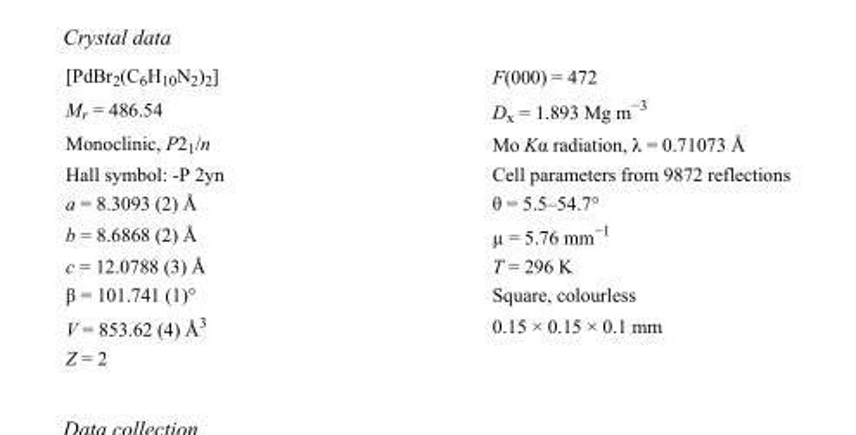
<table><tbody><tr><td>[PdBr<sub>2</sub>(C<sub>6</sub>H<sub>10</sub>N<sub>2</sub>)<sub>2</sub>]</td><td>F(000) = 472</td></tr><tr><td>M<sub>r</sub> = 486.54</td><td>D<sub>x</sub> = 1.893 Mg m<sup>−3</sup></td></tr><tr><td>Monoclinic, P2<sub>1</sub>/n</td><td>Mo Kα radiation, λ = 0.71073 Å</td></tr><tr><td>Hall symbol: -P 2yn</td><td>Cell parameters from 9872 reflections</td></tr><tr><td>a = 8.3093 (2) Å</td><td>θ = 5.5–54.7°</td></tr><tr><td>b = 8.6868 (2) Å</td><td>µ = 5.76 mm<sup>−1</sup></td></tr><tr><td>c = 12.0788 (3) Å</td><td>T = 296 K</td></tr><tr><td>β = 101.741 (1)°</td><td>Square, colourless</td></tr><tr><td>V = 853.62 (4) Å<sup>3</sup></td><td>0.15 × 0.15 × 0.1 mm</td></tr><tr><td>Z = 2</td><td></td></tr></tbody></table>